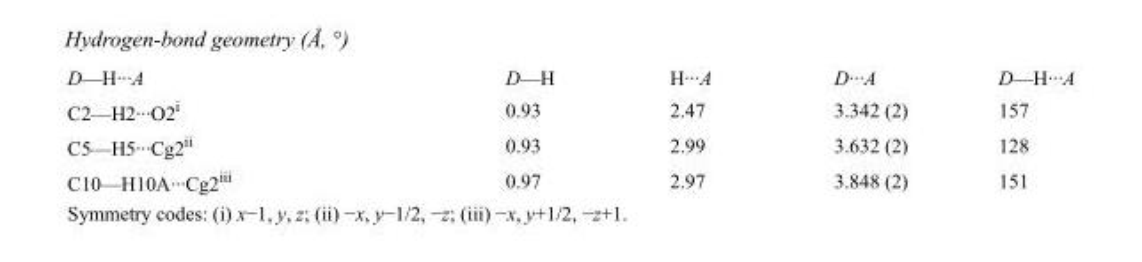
<table><tbody><tr><td>D—H···A</td><td>D—H</td><td>H···A</td><td>D···A</td><td>D—H···A</td></tr><tr><td>C2—H2···O2<sup>i</sup></td><td>0.93</td><td>2.47</td><td>3.342 (2)</td><td>157</td></tr><tr><td>C5—H5···Cg2<sup>ii</sup></td><td>0.93</td><td>2.99</td><td>3.632 (2)</td><td>128</td></tr><tr><td>C10—H10A···Cg2<sup>iii</sup></td><td>0.97</td><td>2.97</td><td>3.848 (2)</td><td>151</td></tr></tbody></table>